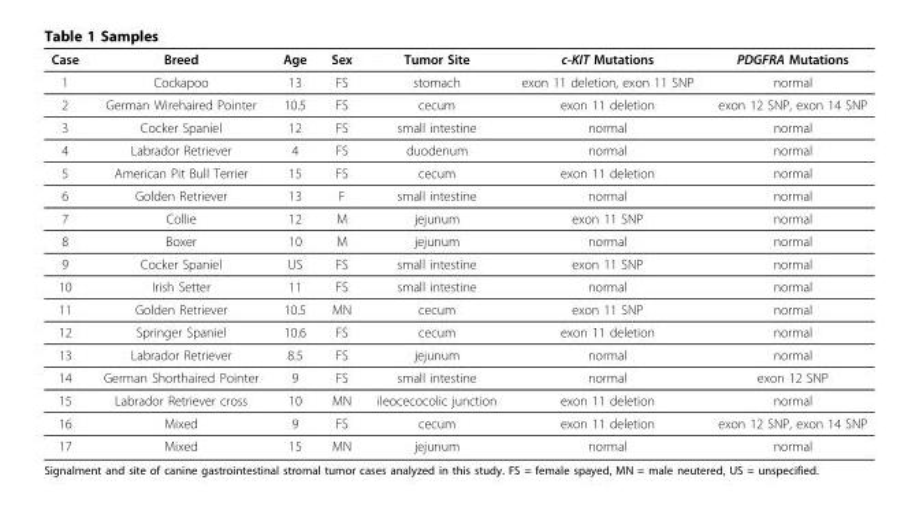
<table><thead><tr><td>Case</td><td>Breed</td><td>Age</td><td>Sex</td><td>Tumor Site</td><td>c-KIT Mutations</td><td>PDGFRA Mutations</td></tr></thead><tbody><tr><td>1</td><td>Cockapoo</td><td>13</td><td>FS</td><td>stomach</td><td>exon 11 deletion, exon 11 SNP</td><td>normal</td></tr><tr><td>2</td><td>German Wirehaired Pointer</td><td>10.5</td><td>FS</td><td>cecum</td><td>exon 11 deletion</td><td>exon 12 SNP, exon 14 SNP</td></tr><tr><td>3</td><td>Cocker Spaniel</td><td>12</td><td>FS</td><td>small intestine</td><td>normal</td><td>normal</td></tr><tr><td>4</td><td>Labrador Retriever</td><td>4</td><td>FS</td><td>duodenum</td><td>normal</td><td>normal</td></tr><tr><td>5</td><td>American Pit Bull Terrier</td><td>15</td><td>FS</td><td>cecum</td><td>exon 11 deletion</td><td>normal</td></tr><tr><td>6</td><td>Golden Retriever</td><td>13</td><td>F</td><td>small intestine</td><td>normal</td><td>normal</td></tr><tr><td>7</td><td>Collie</td><td>12</td><td>M</td><td>jejunum</td><td>exon 11 SNP</td><td>normal</td></tr><tr><td>8</td><td>Boxer</td><td>10</td><td>M</td><td>jejunum</td><td>normal</td><td>normal</td></tr><tr><td>9</td><td>Cocker Spaniel</td><td>US</td><td>FS</td><td>small intestine</td><td>exon 11 SNP</td><td>normal</td></tr><tr><td>10</td><td>Irish Setter</td><td>11</td><td>FS</td><td>small intestine</td><td>normal</td><td>normal</td></tr><tr><td>11</td><td>Golden Retriever</td><td>10.5</td><td>MN</td><td>cecum</td><td>exon 11 SNP</td><td>normal</td></tr><tr><td>12</td><td>Springer Spaniel</td><td>10.6</td><td>FS</td><td>cecum</td><td>exon 11 deletion</td><td>normal</td></tr><tr><td>13</td><td>Labrador Retriever</td><td>8.5</td><td>FS</td><td>jejunum</td><td>normal</td><td>normal</td></tr><tr><td>14</td><td>German Shorthaired Pointer</td><td>9</td><td>FS</td><td>small intestine</td><td>normal</td><td>exon 12 SNP</td></tr><tr><td>15</td><td>Labrador Retriever cross</td><td>10</td><td>MN</td><td>ileocecocolic junction</td><td>exon 11 deletion</td><td>normal</td></tr><tr><td>16</td><td>Mixed</td><td>9</td><td>FS</td><td>cecum</td><td>exon 11 deletion</td><td>exon 12 SNP, exon 14 SNP</td></tr><tr><td>17</td><td>Mixed</td><td>15</td><td>MN</td><td>jejunum</td><td>normal</td><td>normal</td></tr></tbody></table>